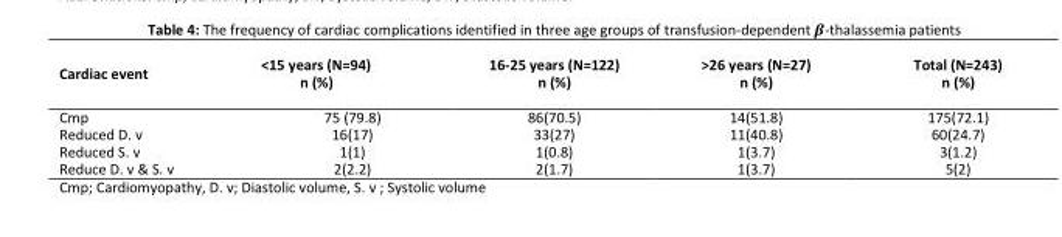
<table><thead><tr><td>Cardiac event</td><td>&lt;15 years (N=94) n (%)</td><td>16-25 years (N=122) n (%)</td><td>&gt;26 years (N=27) n (%)</td><td>Total (N=243) n (%)</td></tr></thead><tbody><tr><td>Cmp</td><td>75 (79.8)</td><td>86(70.5)</td><td>14(51.8)</td><td>175(72.1)</td></tr><tr><td>Reduced D. v</td><td>16(17)</td><td>33(27)</td><td>11(40.8)</td><td>60(24.7)</td></tr><tr><td>Reduced S. v</td><td>1(1)</td><td>1(0.8)</td><td>1(3.7)</td><td>3(1.2)</td></tr><tr><td>Reduce D. v &amp; S. v</td><td>2(2.2)</td><td>2(1.7)</td><td>1(3.7)</td><td>5(2)</td></tr></tbody></table>